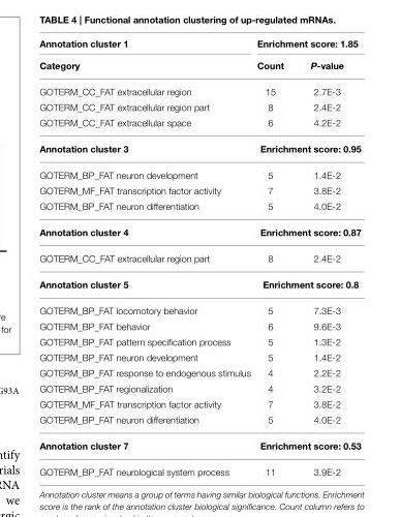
<table><thead><tr><td rowspan="2">Annotation cluster 1 Category</td><td colspan="2">Enrichment score: 1.85</td></tr><tr><td>Count</td><td>P-value</td></tr></thead><tbody><tr><td>GOTERM_CC_FAT extracellular region</td><td>15</td><td>2.7E-3</td></tr><tr><td>GOTERM_CC_FAT extracellular region part</td><td>8</td><td>2.4E-2</td></tr><tr><td>GOTERM_CC_FAT extracellular space</td><td>6</td><td>4.2E-2</td></tr><tr><td>Annotation cluster 3</td><td colspan="2">Enrichment score: 0.95</td></tr><tr><td>GOTERM_BP_FAT neuron development</td><td>5</td><td>1.4E-2</td></tr><tr><td>GOTERM_MF_FAT transcription factor activity</td><td>7</td><td>3.8E-2</td></tr><tr><td>GOTERM_BP_FAT neuron differentiation</td><td>5</td><td>4.0E-2</td></tr><tr><td>Annotation cluster 4</td><td colspan="2">Enrichment score: 0.87</td></tr><tr><td>GOTERM_CC_FAT extracellular region part</td><td>8</td><td>2.4E-2</td></tr><tr><td>Annotation cluster 5</td><td colspan="2">Enrichment score: 0.8</td></tr><tr><td>GOTERM_BP_FAT locomotory behavior</td><td>5</td><td>7.3E-3</td></tr><tr><td>GOTERM_BP_FAT behavior</td><td>6</td><td>9.6E-3</td></tr><tr><td>GOTERM_BP_FAT pattern specification process</td><td>5</td><td>1.3E-2</td></tr><tr><td>GOTERM_BP_FAT neuron development</td><td>5</td><td>1.4E-2</td></tr><tr><td>GOTERM_BP_FAT response to endogenous stimulus</td><td>4</td><td>2.2E-2</td></tr><tr><td>GOTERM_BP_FAT regionalization</td><td>4</td><td>3.2E-2</td></tr><tr><td>GOTERM_MF_FAT transcription factor activity</td><td>7</td><td>3.8E-2</td></tr><tr><td>GOTERM_BP_FAT neuron differentiation</td><td>5</td><td>4.0E-2</td></tr><tr><td>Annotation cluster 7</td><td colspan="2">Enrichment score: 0.53</td></tr><tr><td>GOTERM_BP_FAT neurological system process</td><td>11</td><td>3.9E-2</td></tr></tbody></table>